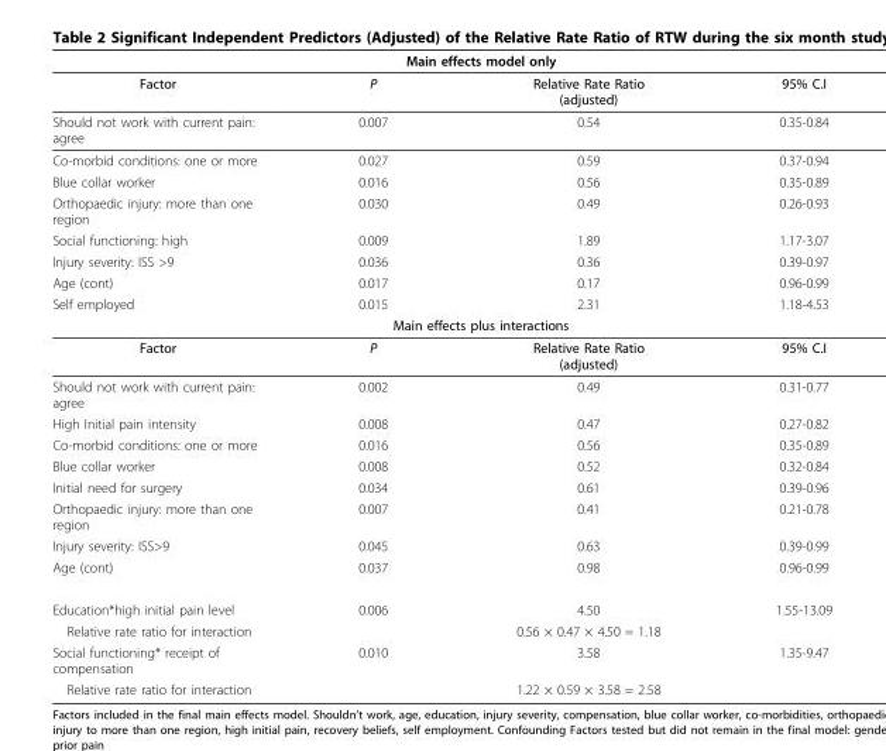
<table><thead><tr><td colspan="4">Main effects model only</td></tr><tr><td>Factor</td><td>P</td><td>Relative Rate Ratio (adjusted)</td><td>95% C.I</td></tr></thead><tbody><tr><td>Should not work with current pain: agree</td><td>0.007</td><td>0.54</td><td>0.35-0.84</td></tr><tr><td>Co-morbid conditions: one or more</td><td>0.027</td><td>0.59</td><td>0.37-0.94</td></tr><tr><td>Blue collar worker</td><td>0.016</td><td>0.56</td><td>0.35-0.89</td></tr><tr><td>Orthopaedic injury: more than one region</td><td>0.030</td><td>0.49</td><td>0.26-0.93</td></tr><tr><td>Social functioning: high</td><td>0.009</td><td>1.89</td><td>1.17-3.07</td></tr><tr><td>Injury severity: ISS &gt;9</td><td>0.036</td><td>0.36</td><td>0.39-0.97</td></tr><tr><td>Age (cont)</td><td>0.017</td><td>0.17</td><td>0.96-0.99</td></tr><tr><td>Self employed</td><td>0.015</td><td>2.31</td><td>1.18-4.53</td></tr><tr><td colspan="4">Main effects plus interactions</td></tr><tr><td>Factor</td><td>P</td><td>Relative Rate Ratio (adjusted)</td><td>95% C.I</td></tr><tr><td>Should not work with current pain: agree</td><td>0.002</td><td>0.49</td><td>0.31-0.77</td></tr><tr><td>High Initial pain intensity</td><td>0.008</td><td>0.47</td><td>0.27-0.82</td></tr><tr><td>Co-morbid conditions: one or more</td><td>0.016</td><td>0.56</td><td>0.35-0.89</td></tr><tr><td>Blue collar worker</td><td>0.008</td><td>0.52</td><td>0.32-0.84</td></tr><tr><td>Initial need for surgery</td><td>0.034</td><td>0.61</td><td>0.39-0.96</td></tr><tr><td>Orthopaedic injury: more than one region</td><td>0.007</td><td>0.41</td><td>0.21-0.78</td></tr><tr><td>Injury severity: ISS&gt;9</td><td>0.045</td><td>0.63</td><td>0.39-0.99</td></tr><tr><td>Age (cont)</td><td>0.037</td><td>0.98</td><td>0.96-0.99</td></tr><tr><td>Education*high initial pain level</td><td>0.006</td><td>4.50</td><td>1.55-13.09</td></tr><tr><td>Relative rate ratio for interaction</td><td colspan="3">0.56 × 0.47 × 4.50 = 1.18</td></tr><tr><td>Social functioning* receipt of compensation</td><td>0.010</td><td>3.58</td><td>1.35-9.47</td></tr><tr><td>Relative rate ratio for interaction</td><td colspan="3">1.22 × 0.59 × 3.58 = 2.58</td></tr></tbody></table>